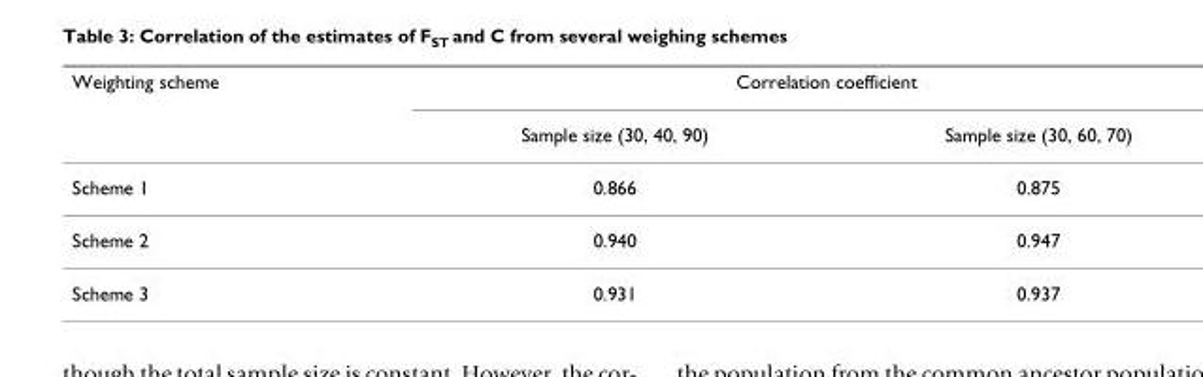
<table><thead><tr><td rowspan="2">Weighting scheme</td><td colspan="2">Correlation coefficient</td></tr><tr><td>Sample size (30, 40, 90)</td><td>Sample size (30, 60, 70)</td></tr></thead><tbody><tr><td>Scheme 1</td><td>0.866</td><td>0.875</td></tr><tr><td>Scheme 2</td><td>0.940</td><td>0.947</td></tr><tr><td>Scheme 3</td><td>0.931</td><td>0.937</td></tr></tbody></table>